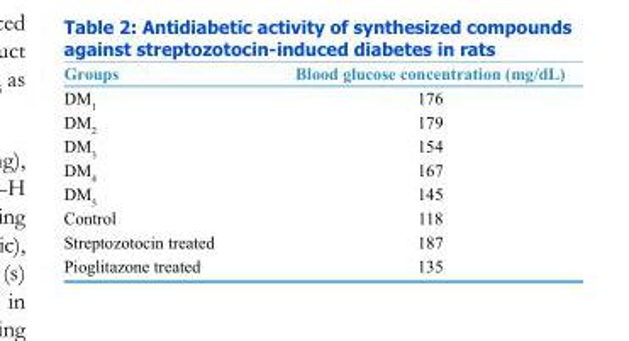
<table><thead><tr><td>Groups</td><td>Blood glucose concentration (mg/dL)</td></tr></thead><tbody><tr><td>DM<sub>1</sub></td><td>176</td></tr><tr><td>DM<sub>2</sub></td><td>179</td></tr><tr><td>DM<sub>3</sub></td><td>154</td></tr><tr><td>DM<sub>4</sub></td><td>167</td></tr><tr><td>DM<sub>5</sub></td><td>145</td></tr><tr><td>Control</td><td>118</td></tr><tr><td>Streptozotocin treated</td><td>187</td></tr><tr><td>Pioglitazone treated</td><td>135</td></tr></tbody></table>